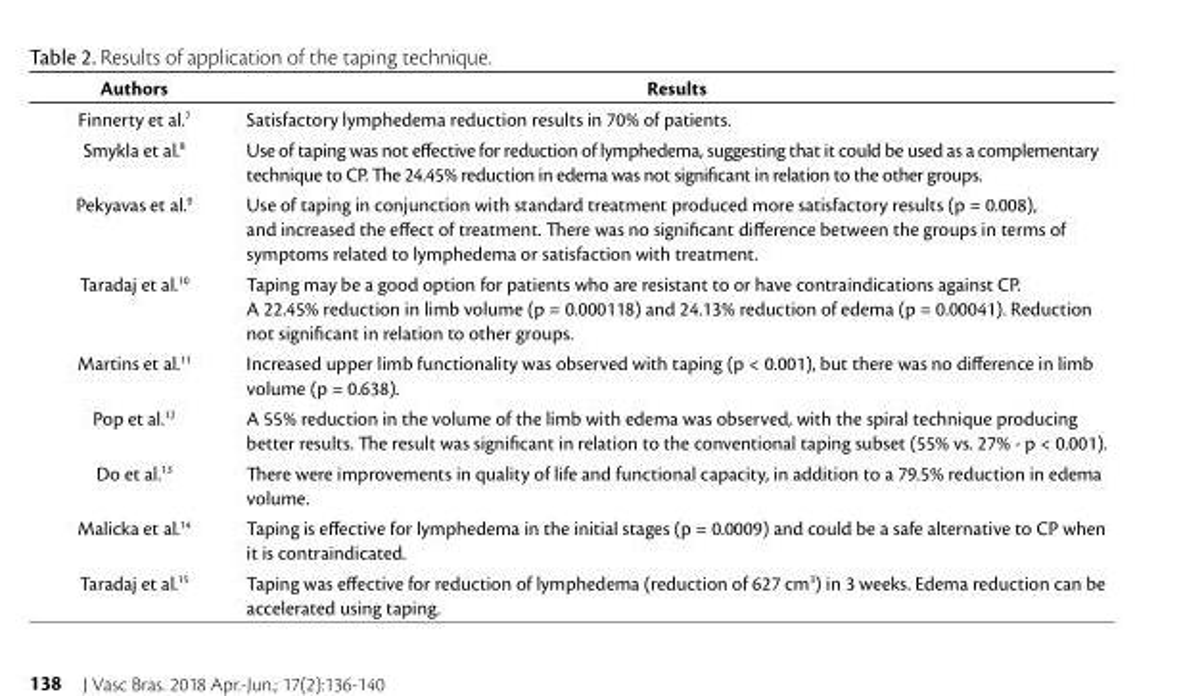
<table><thead><tr><td>Authors</td><td>Results</td></tr></thead><tbody><tr><td>Finnerty et al.7</td><td>Satisfactory lymphedema reduction results in 70% of patients.</td></tr><tr><td>Smykla et al.8</td><td>Use of taping was not effective for reduction of lymphedema, suggesting that it could be used as a complementary technique to CP. The 24.45% reduction in edema was not significant in relation to the other groups.</td></tr><tr><td>Pekyavas et al.9</td><td>Use of taping in conjunction with standard treatment produced more satisfactory results (p = 0.008), and increased the effect of treatment. There was no significant difference between the groups in terms of symptoms related to lymphedema or satisfaction with treatment.</td></tr><tr><td>Taradaj et al.10</td><td>Taping may be a good option for patients who are resistant to or have contraindications against CP. A 22.45% reduction in limb volume (p = 0.000118) and 24.13% reduction of edema (p = 0.00041). Reduction not significant in relation to other groups.</td></tr><tr><td>Martins et al.11</td><td>Increased upper limb functionality was observed with taping (p &lt; 0.001), but there was no difference in limb volume (p = 0.638).</td></tr><tr><td>Pop et al.12</td><td>A 55% reduction in the volume of the limb with edema was observed, with the spiral technique producing better results. The result was significant in relation to the conventional taping subset (55% vs. 27% - p &lt; 0.001).</td></tr><tr><td>Do et al.13</td><td>There were improvements in quality of life and functional capacity, in addition to a 79.5% reduction in edema volume.</td></tr><tr><td>Malicka et al.14</td><td>Taping is effective for lymphedema in the initial stages (p = 0.0009) and could be a safe alternative to CP when it is contraindicated.</td></tr><tr><td>Taradaj et al.15</td><td>Taping was effective for reduction of lymphedema (reduction of 627 cm<sup>3</sup>) in 3 weeks. Edema reduction can be accelerated using taping.</td></tr></tbody></table>